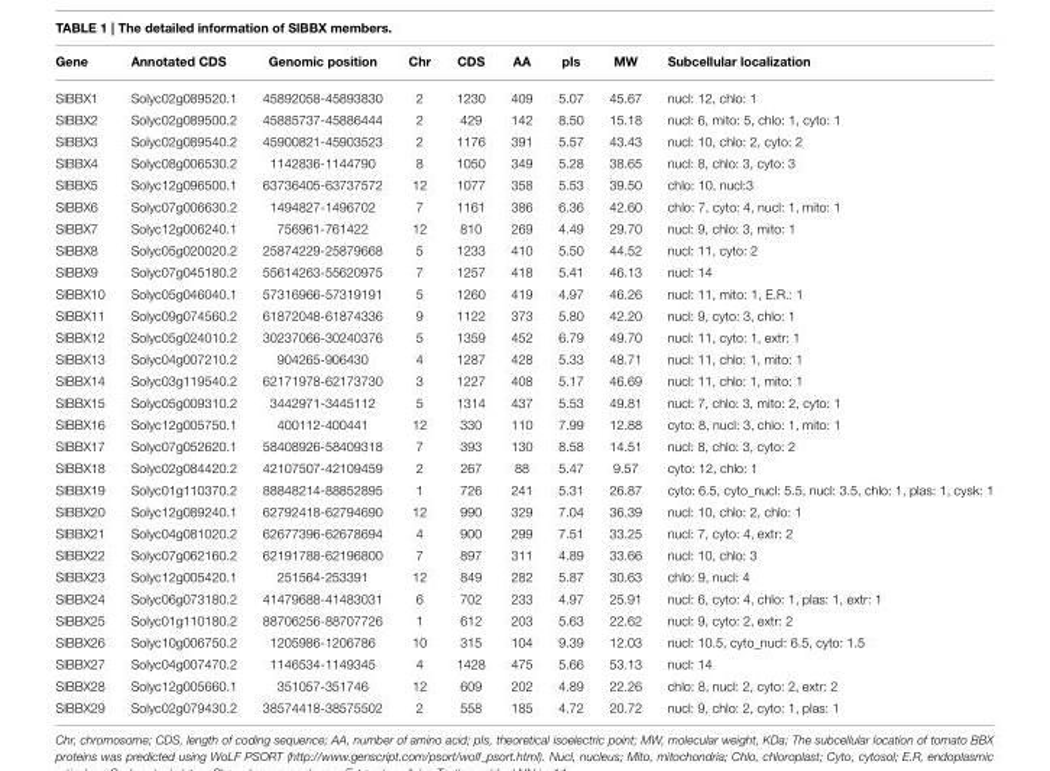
<table><thead><tr><td>Gene</td><td>Annotated CDS</td><td>Genomic position</td><td>Chr</td><td>CDS</td><td>AA</td><td>pIs</td><td>MW</td><td>Subcellular localization</td></tr></thead><tbody><tr><td>SlBBX1</td><td>Solyc02g089520.1</td><td>45892058-45893830</td><td>2</td><td>1230</td><td>409</td><td>5.07</td><td>45.67</td><td>nucl: 12, chlo: 1</td></tr><tr><td>SlBBX2</td><td>Solyc02g089500.2</td><td>45885737-45886444</td><td>2</td><td>429</td><td>142</td><td>8.50</td><td>15.18</td><td>nucl: 6, mito: 5, chlo: 1, cyto: 1</td></tr><tr><td>SlBBX3</td><td>Solyc02g089540.2</td><td>45900821-45903523</td><td>2</td><td>1176</td><td>391</td><td>5.57</td><td>43.43</td><td>nucl: 10, chlo: 2, cyto: 2</td></tr><tr><td>SlBBX4</td><td>Solyc08g006530.2</td><td>1142836-1144790</td><td>8</td><td>1050</td><td>349</td><td>5.28</td><td>38.65</td><td>nucl: 8, chlo: 3, cyto: 3</td></tr><tr><td>SlBBX5</td><td>Solyc12g096500.1</td><td>63736405-63737572</td><td>12</td><td>1077</td><td>358</td><td>5.53</td><td>39.50</td><td>chlo: 10, nucl:3</td></tr><tr><td>SlBBX6</td><td>Solyc07g006630.2</td><td>1494827-1496702</td><td>7</td><td>1161</td><td>386</td><td>6.36</td><td>42.60</td><td>chlo: 7, cyto: 4, nucl: 1, mito: 1</td></tr><tr><td>SlBBX7</td><td>Solyc12g006240.1</td><td>756961-761422</td><td>12</td><td>810</td><td>269</td><td>4.49</td><td>29.70</td><td>nucl: 9, chlo: 3, mito: 1</td></tr><tr><td>SlBBX8</td><td>Solyc05g020020.2</td><td>25874229-25879668</td><td>5</td><td>1233</td><td>410</td><td>5.50</td><td>44.52</td><td>nucl: 11, cyto: 2</td></tr><tr><td>SlBBX9</td><td>Solyc07g045180.2</td><td>55614263-55620975</td><td>7</td><td>1257</td><td>418</td><td>5.41</td><td>46.13</td><td>nucl: 14</td></tr><tr><td>SlBBX10</td><td>Solyc05g046040.1</td><td>57316966-57319191</td><td>5</td><td>1260</td><td>419</td><td>4.97</td><td>46.26</td><td>nucl: 11, mito: 1, E.R.: 1</td></tr><tr><td>SlBBX11</td><td>Solyc09g074560.2</td><td>61872048-61874336</td><td>9</td><td>1122</td><td>373</td><td>5.80</td><td>42.20</td><td>nucl: 9, cyto: 3, chlo: 1</td></tr><tr><td>SlBBX12</td><td>Solyc05g024010.2</td><td>30237066-30240376</td><td>5</td><td>1359</td><td>452</td><td>6.79</td><td>49.70</td><td>nucl: 11, cyto: 1, extr: 1</td></tr><tr><td>SlBBX13</td><td>Solyc04g007210.2</td><td>904265-906430</td><td>4</td><td>1287</td><td>428</td><td>5.33</td><td>48.71</td><td>nucl: 11, chlo: 1, mito: 1</td></tr><tr><td>SlBBX14</td><td>Solyc03g119540.2</td><td>62171978-62173730</td><td>3</td><td>1227</td><td>408</td><td>5.17</td><td>46.69</td><td>nucl: 11, chlo: 1, mito: 1</td></tr><tr><td>SlBBX15</td><td>Solyc05g009310.2</td><td>3442971-3445112</td><td>5</td><td>1314</td><td>437</td><td>5.53</td><td>49.81</td><td>nucl: 7, chlo: 3, mito: 2, cyto: 1</td></tr><tr><td>SlBBX16</td><td>Solyc12g005750.1</td><td>400112-400441</td><td>12</td><td>330</td><td>110</td><td>7.99</td><td>12.88</td><td>cyto: 8, nucl: 3, chlo: 1, mito: 1</td></tr><tr><td>SlBBX17</td><td>Solyc07g052620.1</td><td>58408926-58409318</td><td>7</td><td>393</td><td>130</td><td>8.58</td><td>14.51</td><td>nucl: 8, chlo: 3, cyto: 2</td></tr><tr><td>SlBBX18</td><td>Solyc02g084420.2</td><td>42107507-42109459</td><td>2</td><td>267</td><td>88</td><td>5.47</td><td>9.57</td><td>cyto: 12, chlo: 1</td></tr><tr><td>SlBBX19</td><td>Solyc01g110370.2</td><td>88848214-88852895</td><td>1</td><td>726</td><td>241</td><td>5.31</td><td>26.87</td><td>cyto: 6.5, cyto_nucl: 5.5, nucl: 3.5, chlo: 1, plas: 1, cysk: 1</td></tr><tr><td>SlBBX20</td><td>Solyc12g089240.1</td><td>62792418-62794690</td><td>12</td><td>990</td><td>329</td><td>7.04</td><td>36.39</td><td>nucl: 10, chlo: 2, chlo: 1</td></tr><tr><td>SlBBX21</td><td>Solyc04g081020.2</td><td>62677396-62678694</td><td>4</td><td>900</td><td>299</td><td>7.51</td><td>33.25</td><td>nucl: 7, cyto: 4, extr: 2</td></tr><tr><td>SlBBX22</td><td>Solyc07g062160.2</td><td>62191788-62196800</td><td>7</td><td>897</td><td>311</td><td>4.89</td><td>33.66</td><td>nucl: 10, chlo: 3</td></tr><tr><td>SlBBX23</td><td>Solyc12g005420.1</td><td>251564-253391</td><td>12</td><td>849</td><td>282</td><td>5.87</td><td>30.63</td><td>chlo: 9, nucl: 4</td></tr><tr><td>SlBBX24</td><td>Solyc06g073180.2</td><td>41479688-41483031</td><td>6</td><td>702</td><td>233</td><td>4.97</td><td>25.91</td><td>nucl: 6, cyto: 4, chlo: 1, plas: 1, extr: 1</td></tr><tr><td>SlBBX25</td><td>Solyc01g110180.2</td><td>88706256-88707726</td><td>1</td><td>612</td><td>203</td><td>5.63</td><td>22.62</td><td>nucl: 9, cyto: 2, extr: 2</td></tr><tr><td>SlBBX26</td><td>Solyc10g006750.2</td><td>1205986-1206786</td><td>10</td><td>315</td><td>104</td><td>9.39</td><td>12.03</td><td>nucl: 10.5, cyto_nucl: 6.5, cyto: 1.5</td></tr><tr><td>SlBBX27</td><td>Solyc04g007470.2</td><td>1146534-1149345</td><td>4</td><td>1428</td><td>475</td><td>5.66</td><td>53.13</td><td>nucl: 14</td></tr><tr><td>SlBBX28</td><td>Solyc12g005660.1</td><td>351057-351746</td><td>12</td><td>609</td><td>202</td><td>4.89</td><td>22.26</td><td>chlo: 8, nucl: 2, cyto: 2, extr: 2</td></tr><tr><td>SlBBX29</td><td>Solyc02g079430.2</td><td>38574418-38575502</td><td>2</td><td>558</td><td>185</td><td>4.72</td><td>20.72</td><td>nucl: 9, chlo: 2, cyto: 1, plas: 1</td></tr></tbody></table>